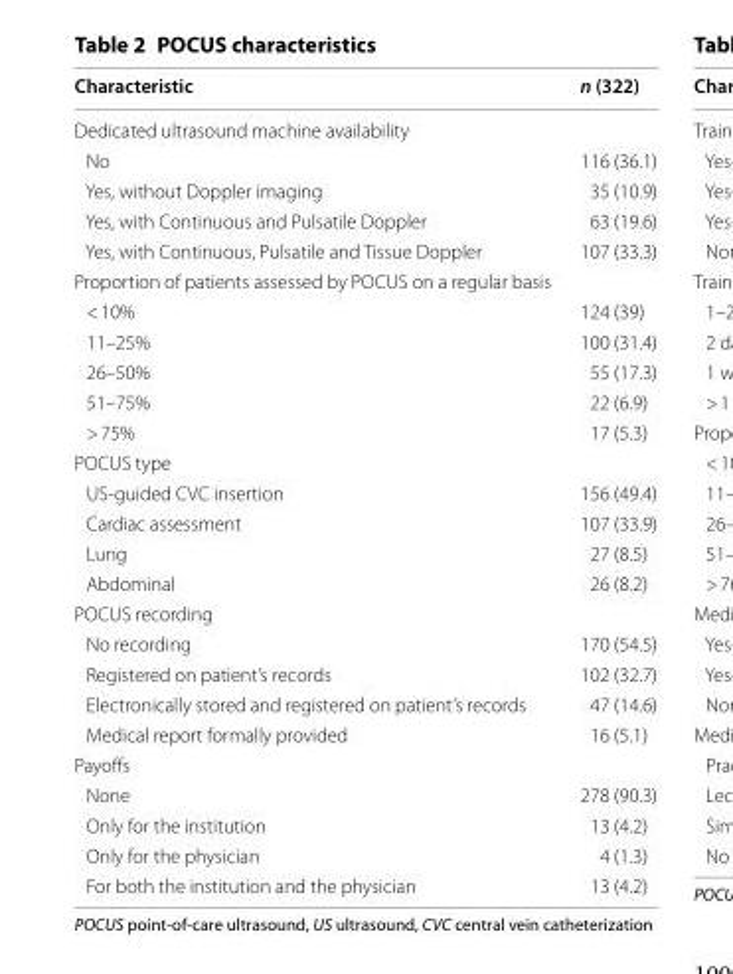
<table><thead><tr><td>Characteristic</td><td>n (322)</td></tr></thead><tbody><tr><td colspan="2">Dedicated ultrasound machine availability</td></tr><tr><td>No</td><td>116 (36.1)</td></tr><tr><td>Yes, without Doppler imaging</td><td>35 (10.9)</td></tr><tr><td>Yes, with Continuous and Pulsatile Doppler</td><td>63 (19.6)</td></tr><tr><td>Yes, with Continuous, Pulsatile and Tissue Doppler</td><td>107 (33.3)</td></tr><tr><td colspan="2">Proportion of patients assessed by POCUS on a regular basis</td></tr><tr><td>&lt; 10%</td><td>124 (39)</td></tr><tr><td>11–25%</td><td>100 (31.4)</td></tr><tr><td>26–50%</td><td>55 (17.3)</td></tr><tr><td>51–75%</td><td>22 (6.9)</td></tr><tr><td>&gt; 75%</td><td>17 (5.3)</td></tr><tr><td colspan="2">POCUS type</td></tr><tr><td>US-guided CVC insertion</td><td>156 (49.4)</td></tr><tr><td>Cardiac assessment</td><td>107 (33.9)</td></tr><tr><td>Lung</td><td>27 (8.5)</td></tr><tr><td>Abdominal</td><td>26 (8.2)</td></tr><tr><td colspan="2">POCUS recording</td></tr><tr><td>No recording</td><td>170 (54.5)</td></tr><tr><td>Registered on patient’s records</td><td>102 (32.7)</td></tr><tr><td>Electronically stored and registered on patient’s records</td><td>47 (14.6)</td></tr><tr><td>Medical report formally provided</td><td>16 (5.1)</td></tr><tr><td colspan="2">Payoffs</td></tr><tr><td>None</td><td>278 (90.3)</td></tr><tr><td>Only for the institution</td><td>13 (4.2)</td></tr><tr><td>Only for the physician</td><td>4 (1.3)</td></tr><tr><td>For both the institution and the physician</td><td>13 (4.2)</td></tr></tbody></table>